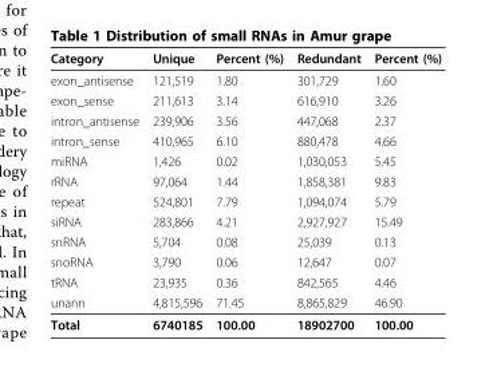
<table><thead><tr><td>Category</td><td>Unique</td><td>Percent (%)</td><td>Redundant</td><td>Percent (%)</td></tr></thead><tbody><tr><td>exon_antisense</td><td>121,519</td><td>1.80</td><td>301,729</td><td>1.60</td></tr><tr><td>exon_sense</td><td>211,613</td><td>3.14</td><td>616,910</td><td>3.26</td></tr><tr><td>intron_antisense</td><td>239,906</td><td>3.56</td><td>447,068</td><td>2.37</td></tr><tr><td>intron_sense</td><td>410,965</td><td>6.10</td><td>880,478</td><td>4.66</td></tr><tr><td>miRNA</td><td>1,426</td><td>0.02</td><td>1,030,053</td><td>5.45</td></tr><tr><td>rRNA</td><td>97,064</td><td>1.44</td><td>1,858,381</td><td>9.83</td></tr><tr><td>repeat</td><td>524,801</td><td>7.79</td><td>1,094,074</td><td>5.79</td></tr><tr><td>siRNA</td><td>283,866</td><td>4.21</td><td>2,927,927</td><td>15.49</td></tr><tr><td>snRNA</td><td>5,704</td><td>0.08</td><td>25,039</td><td>0.13</td></tr><tr><td>snoRNA</td><td>3,790</td><td>0.06</td><td>12,647</td><td>0.07</td></tr><tr><td>tRNA</td><td>23,935</td><td>0.36</td><td>842,565</td><td>4.46</td></tr><tr><td>unann</td><td>4,815,596</td><td>71.45</td><td>8,865,829</td><td>46.90</td></tr><tr><td>Total</td><td>6740185</td><td>100.00</td><td>18902700</td><td>100.00</td></tr></tbody></table>